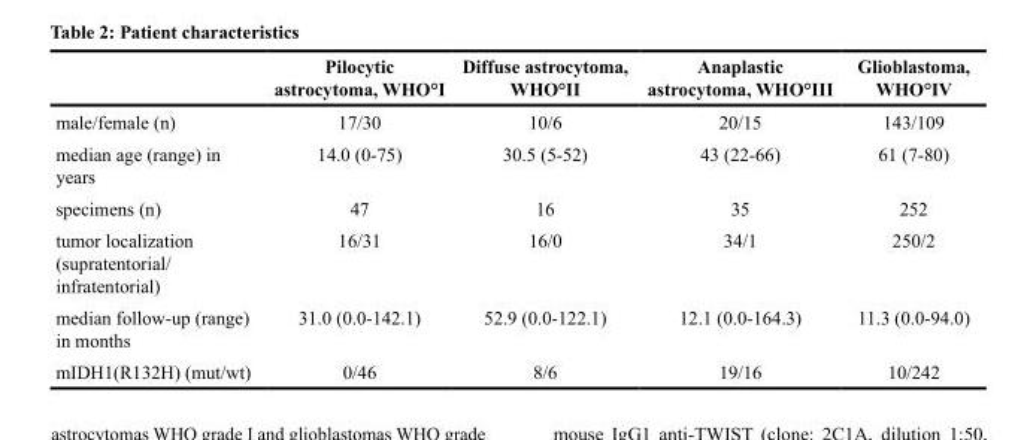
<table><thead><tr><td></td><td>Pilocytic astrocytoma, WHO°I</td><td>Diffuse astrocytoma, WHO°II</td><td>Anaplastic astrocytoma, WHO°III</td><td>Glioblastoma, WHO°IV</td></tr></thead><tbody><tr><td>male/female (n)</td><td>17/30</td><td>10/6</td><td>20/15</td><td>143/109</td></tr><tr><td>median age (range) in years</td><td>14.0 (0-75)</td><td>30.5 (5-52)</td><td>43 (22-66)</td><td>61 (7-80)</td></tr><tr><td>specimens (n)</td><td>47</td><td>16</td><td>35</td><td>252</td></tr><tr><td>tumor localization (supratentorial/ infratentorial)</td><td>16/31</td><td>16/0</td><td>34/1</td><td>250/2</td></tr><tr><td>median follow-up (range) in months</td><td>31.0 (0.0-142.1)</td><td>52.9 (0.0-122.1)</td><td>12.1 (0.0-164.3)</td><td>11.3 (0.0-94.0)</td></tr><tr><td>mIDH1(R132H) (mut/wt)</td><td>0/46</td><td>8/6</td><td>19/16</td><td>10/242</td></tr></tbody></table>